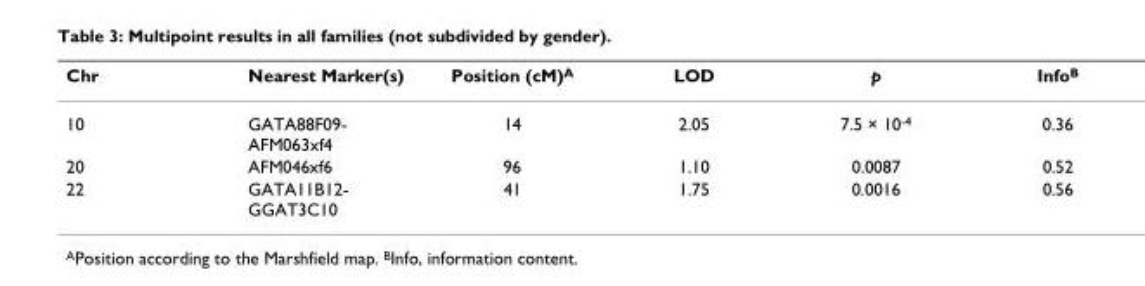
<table><thead><tr><td>Chr</td><td>Nearest Marker(s)</td><td>Position (cM)A</td><td>LOD</td><td>p</td><td>InfoB</td></tr></thead><tbody><tr><td>10</td><td>GATA88F09- AFM063xf4</td><td>14</td><td>2.05</td><td>7.5 × 10-4</td><td>0.36</td></tr><tr><td>20</td><td>AFM046xf6</td><td>96</td><td>1.10</td><td>0.0087</td><td>0.52</td></tr><tr><td>22</td><td>GATA11B12- GGAT3C10</td><td>41</td><td>1.75</td><td>0.0016</td><td>0.56</td></tr></tbody></table>